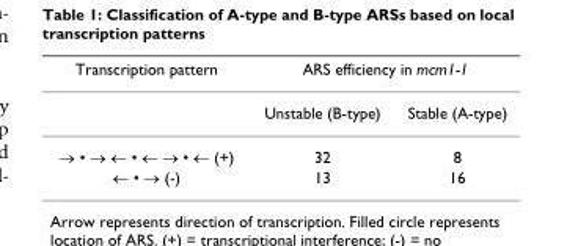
<table><thead><tr><td rowspan="2">Transcription pattern</td><td colspan="2">ARS efficiency in mcm1-1</td></tr><tr><td>Unstable (B-type)</td><td>Stable (A-type)</td></tr></thead><tbody><tr><td>→ • → ← • ← → • ← (+)</td><td>32</td><td>8</td></tr><tr><td>← • → (-)</td><td>13</td><td>16</td></tr></tbody></table>